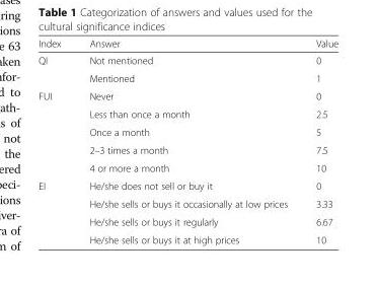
<table><thead><tr><td>Index</td><td>Answer</td><td>Value</td></tr></thead><tbody><tr><td rowspan="2">QI</td><td>Not mentioned</td><td>0</td></tr><tr><td>Mentioned</td><td>1</td></tr><tr><td rowspan="5">FUI</td><td>Never</td><td>0</td></tr><tr><td>Less than once a month</td><td>2.5</td></tr><tr><td>Once a month</td><td>5</td></tr><tr><td>2–3 times a month</td><td>7.5</td></tr><tr><td>4 or more a month</td><td>10</td></tr><tr><td rowspan="4">EI</td><td>He/she does not sell or buy it</td><td>0</td></tr><tr><td>He/she sells or buys it occasionally at low prices</td><td>3.33</td></tr><tr><td>He/she sells or buys it regularly</td><td>6.67</td></tr><tr><td>He/she sells or buys it at high prices</td><td>10</td></tr></tbody></table>